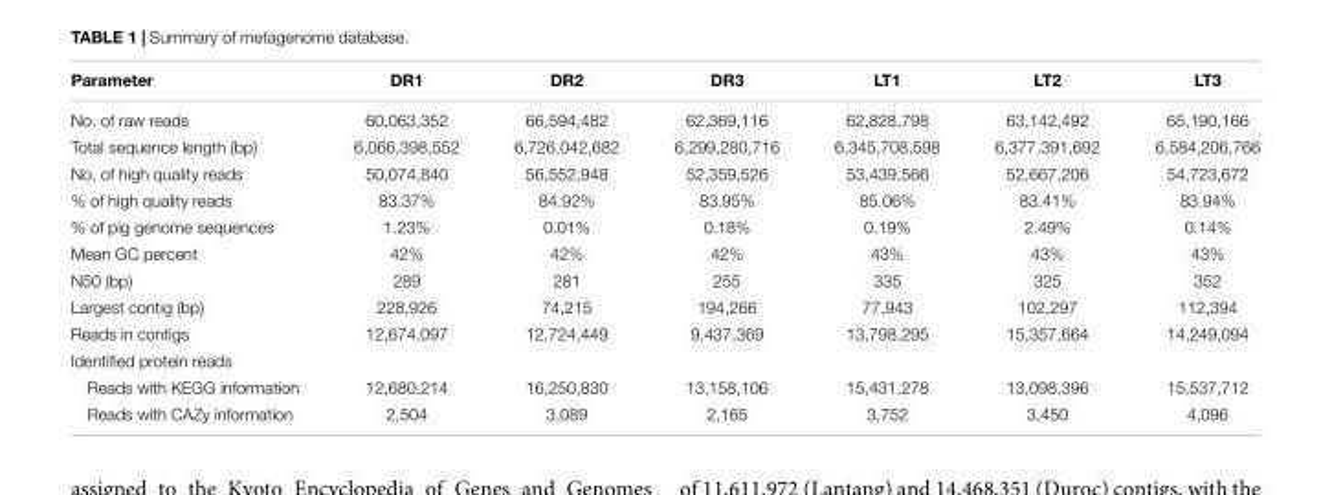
<table><thead><tr><td>Parameter</td><td>DR1</td><td>DR2</td><td>DR3</td><td>LT1</td><td>LT2</td><td>LT3</td></tr></thead><tbody><tr><td>No. of raw reads</td><td>60,063,352</td><td>66,594,482</td><td>62,369,116</td><td>62,828,798</td><td>63,142,492</td><td>65,190,166</td></tr><tr><td>Total sequence length (bp)</td><td>6,066,398,552</td><td>6,726,042,682</td><td>6,299,280,716</td><td>6,345,708,598</td><td>6,377,391,692</td><td>6,584,206,766</td></tr><tr><td>No. of high quality reads</td><td>50,074,840</td><td>56,552,948</td><td>52,359,526</td><td>53,439,566</td><td>52,667,206</td><td>54,723,672</td></tr><tr><td>% of high quality reads</td><td>83.37%</td><td>84.92%</td><td>83.95%</td><td>85.06%</td><td>83.41%</td><td>83.94%</td></tr><tr><td>% of pig genome sequences</td><td>1.23%</td><td>0.01%</td><td>0.18%</td><td>0.19%</td><td>2.49%</td><td>0.14%</td></tr><tr><td>Mean GC percent</td><td>42%</td><td>42%</td><td>42%</td><td>43%</td><td>43%</td><td>43%</td></tr><tr><td>N50 (bp)</td><td>289</td><td>281</td><td>255</td><td>335</td><td>325</td><td>352</td></tr><tr><td>Largest contig (bp)</td><td>228,926</td><td>74,215</td><td>194,266</td><td>77,943</td><td>102,297</td><td>112,394</td></tr><tr><td>Reads in contigs</td><td>12,674,097</td><td>12,724,449</td><td>9,437,369</td><td>13,798,295</td><td>15,357,664</td><td>14,249,094</td></tr><tr><td colspan="7">Identified protein reads</td></tr><tr><td>Reads with KEGG information</td><td>12,680,214</td><td>16,250,830</td><td>13,158,106</td><td>15,431,278</td><td>13,098,396</td><td>15,537,712</td></tr><tr><td>Reads with CAZy information</td><td>2,504</td><td>3,089</td><td>2,165</td><td>3,752</td><td>3,450</td><td>4,096</td></tr></tbody></table>